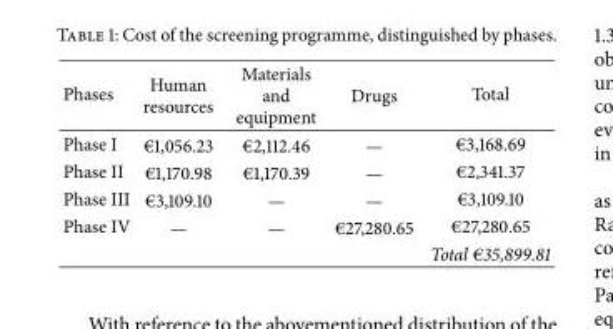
<table><thead><tr><td>Phases</td><td>Human resources</td><td>Materials and equipment</td><td>Drugs</td><td>Total</td></tr></thead><tbody><tr><td>Phase I</td><td>€1,056.23</td><td>€2,112.46</td><td>—</td><td>€3,168.69</td></tr><tr><td>Phase II</td><td>€1,170.98</td><td>€1,170.39</td><td>—</td><td>€2,341.37</td></tr><tr><td>Phase III</td><td>€3,109.10</td><td>—</td><td>—</td><td>€3,109.10</td></tr><tr><td>Phase IV</td><td>—</td><td>—</td><td>€27,280.65</td><td>€27,280.65</td></tr><tr><td colspan="4"></td><td>Total €35,899.81</td></tr></tbody></table>